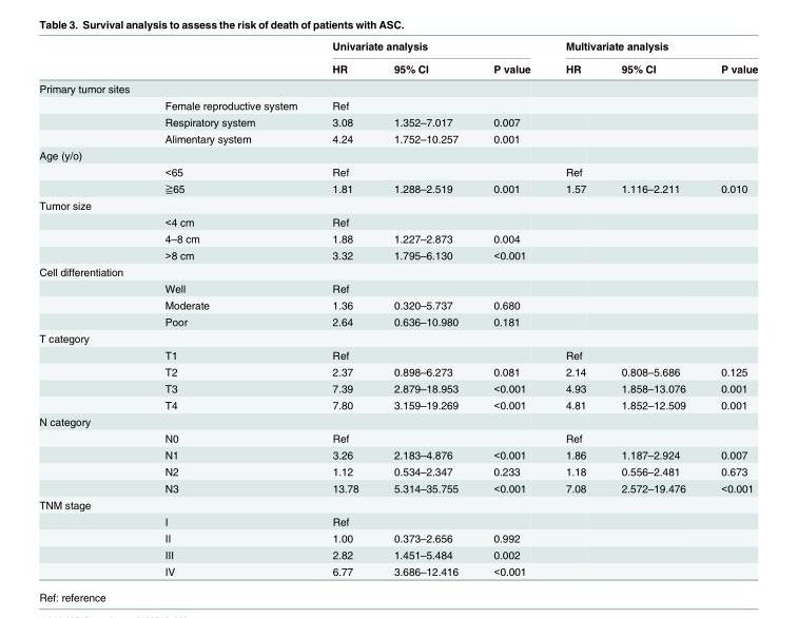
<table><thead><tr><td rowspan="2"></td><td rowspan="2"></td><td colspan="3">Univariate analysis</td><td colspan="3">Multivariate analysis</td></tr><tr><td>HR</td><td>95% CI</td><td>P value</td><td>HR</td><td>95% CI</td><td>P value</td></tr></thead><tbody><tr><td colspan="8">Primary tumor sites</td></tr><tr><td></td><td>Female reproductive system</td><td>Ref</td><td></td><td></td><td></td><td></td><td></td></tr><tr><td></td><td>Respiratory system</td><td>3.08</td><td>1.352–7.017</td><td>0.007</td><td></td><td></td><td></td></tr><tr><td></td><td>Alimentary system</td><td>4.24</td><td>1.752–10.257</td><td>0.001</td><td></td><td></td><td></td></tr><tr><td colspan="8">Age (y/o)</td></tr><tr><td></td><td>&lt;65</td><td>Ref</td><td></td><td></td><td>Ref</td><td></td><td></td></tr><tr><td></td><td>≧65</td><td>1.81</td><td>1.288–2.519</td><td>0.001</td><td>1.57</td><td>1.116–2.211</td><td>0.010</td></tr><tr><td colspan="8">Tumor size</td></tr><tr><td></td><td>&lt;4 cm</td><td>Ref</td><td></td><td></td><td></td><td></td><td></td></tr><tr><td></td><td>4–8 cm</td><td>1.88</td><td>1.227–2.873</td><td>0.004</td><td></td><td></td><td></td></tr><tr><td></td><td>&gt;8 cm</td><td>3.32</td><td>1.795–6.130</td><td>&lt;0.001</td><td></td><td></td><td></td></tr><tr><td colspan="8">Cell differentiation</td></tr><tr><td></td><td>Well</td><td>Ref</td><td></td><td></td><td></td><td></td><td></td></tr><tr><td></td><td>Moderate</td><td>1.36</td><td>0.320–5.737</td><td>0.680</td><td></td><td></td><td></td></tr><tr><td></td><td>Poor</td><td>2.64</td><td>0.636–10.980</td><td>0.181</td><td></td><td></td><td></td></tr><tr><td colspan="8">T category</td></tr><tr><td></td><td>T1</td><td>Ref</td><td></td><td></td><td>Ref</td><td></td><td></td></tr><tr><td></td><td>T2</td><td>2.37</td><td>0.898–6.273</td><td>0.081</td><td>2.14</td><td>0.808–5.686</td><td>0.125</td></tr><tr><td></td><td>T3</td><td>7.39</td><td>2.879–18.953</td><td>&lt;0.001</td><td>4.93</td><td>1.858–13.076</td><td>0.001</td></tr><tr><td></td><td>T4</td><td>7.80</td><td>3.159–19.269</td><td>&lt;0.001</td><td>4.81</td><td>1.852–12.509</td><td>0.001</td></tr><tr><td colspan="8">N category</td></tr><tr><td></td><td>N0</td><td>Ref</td><td></td><td></td><td>Ref</td><td></td><td></td></tr><tr><td></td><td>N1</td><td>3.26</td><td>2.183–4.876</td><td>&lt;0.001</td><td>1.86</td><td>1.187–2.924</td><td>0.007</td></tr><tr><td></td><td>N2</td><td>1.12</td><td>0.534–2.347</td><td>0.233</td><td>1.18</td><td>0.556–2.481</td><td>0.673</td></tr><tr><td></td><td>N3</td><td>13.78</td><td>5.314–35.755</td><td>&lt;0.001</td><td>7.08</td><td>2.572–19.476</td><td>&lt;0.001</td></tr><tr><td colspan="8">TNM stage</td></tr><tr><td></td><td>I</td><td>Ref</td><td></td><td></td><td></td><td></td><td></td></tr><tr><td></td><td>II</td><td>1.00</td><td>0.373–2.656</td><td>0.992</td><td></td><td></td><td></td></tr><tr><td></td><td>III</td><td>2.82</td><td>1.451–5.484</td><td>0.002</td><td></td><td></td><td></td></tr><tr><td></td><td>IV</td><td>6.77</td><td>3.686–12.416</td><td>&lt;0.001</td><td></td><td></td><td></td></tr></tbody></table>